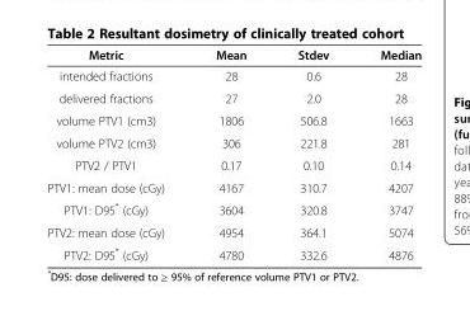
<table><thead><tr><td>Metric</td><td>Mean</td><td>Stdev</td><td>Median</td></tr></thead><tbody><tr><td>intended fractions</td><td>28</td><td>0.6</td><td>28</td></tr><tr><td>delivered fractions</td><td>27</td><td>2.0</td><td>28</td></tr><tr><td>volume PTV1 (cm3)</td><td>1806</td><td>506.8</td><td>1663</td></tr><tr><td>volume PTV2 (cm3)</td><td>306</td><td>221.8</td><td>281</td></tr><tr><td>PTV2 / PTV1</td><td>0.17</td><td>0.10</td><td>0.14</td></tr><tr><td>PTV1: mean dose (cGy)</td><td>4167</td><td>310.7</td><td>4207</td></tr><tr><td>PTV1: D95* (cGy)</td><td>3604</td><td>320.8</td><td>3747</td></tr><tr><td>PTV2: mean dose (cGy)</td><td>4954</td><td>364.1</td><td>5074</td></tr><tr><td>PTV2: D95* (cGy)</td><td>4780</td><td>332.6</td><td>4876</td></tr></tbody></table>